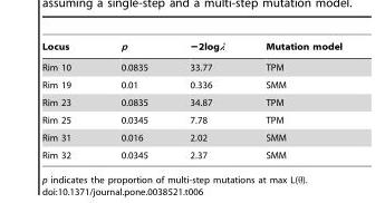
<table><thead><tr><td>Locus</td><td>p</td><td>−2logλ</td><td>Mutation model</td></tr></thead><tbody><tr><td>Rim 10</td><td>0.0835</td><td>33.77</td><td>TPM</td></tr><tr><td>Rim 19</td><td>0.01</td><td>0.336</td><td>SMM</td></tr><tr><td>Rim 23</td><td>0.0835</td><td>34.87</td><td>TPM</td></tr><tr><td>Rim 25</td><td>0.0345</td><td>7.78</td><td>TPM</td></tr><tr><td>Rim 31</td><td>0.016</td><td>2.02</td><td>SMM</td></tr><tr><td>Rim 32</td><td>0.0345</td><td>2.37</td><td>SMM</td></tr></tbody></table>